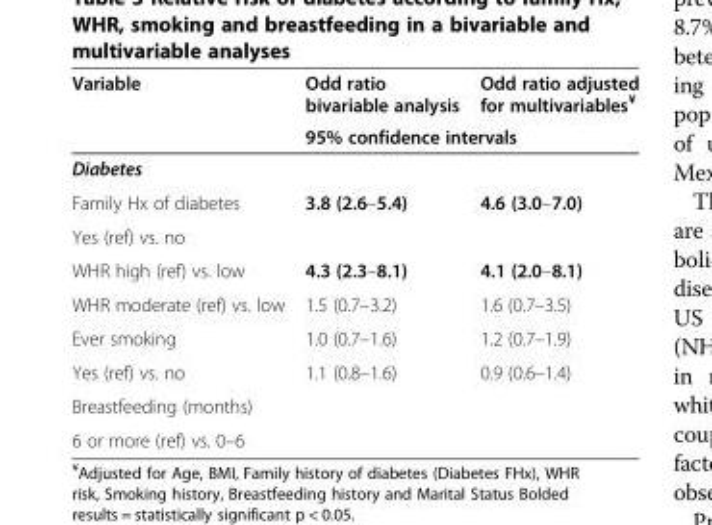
<table><thead><tr><td rowspan="2">Variable</td><td>Odd ratio bivariable analysis</td><td>Odd ratio adjusted for multivariables<sup>¥</sup></td></tr><tr><td colspan="2">95% confidence intervals</td></tr></thead><tbody><tr><td colspan="3">Diabetes</td></tr><tr><td>Family Hx of diabetes</td><td>3.8 (2.6–5.4)</td><td>4.6 (3.0–7.0)</td></tr><tr><td colspan="3">Yes (ref) vs. no</td></tr><tr><td>WHR high (ref) vs. low</td><td>4.3 (2.3–8.1)</td><td>4.1 (2.0–8.1)</td></tr><tr><td>WHR moderate (ref) vs. low</td><td>1.5 (0.7–3.2)</td><td>1.6 (0.7–3.5)</td></tr><tr><td>Ever smoking</td><td>1.0 (0.7–1.6)</td><td>1.2 (0.7–1.9)</td></tr><tr><td>Yes (ref) vs. no</td><td>1.1 (0.8–1.6)</td><td>0.9 (0.6–1.4)</td></tr><tr><td colspan="3">Breastfeeding (months)</td></tr><tr><td>6 or more (ref) vs. 0–6</td><td></td><td></td></tr></tbody></table>